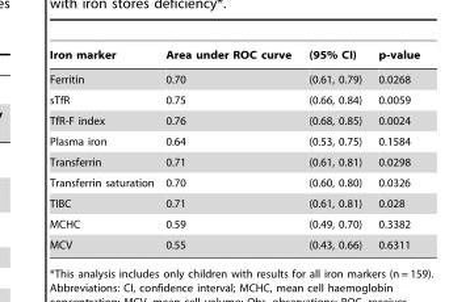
<table><thead><tr><td>Iron marker</td><td>Area under ROC curve</td><td>(95% CI)</td><td>p-value</td></tr></thead><tbody><tr><td>Ferritin</td><td>0.70</td><td>(0.61, 0.79)</td><td>0.0268</td></tr><tr><td>sTfR</td><td>0.75</td><td>(0.66, 0.84)</td><td>0.0059</td></tr><tr><td>TfR-F index</td><td>0.76</td><td>(0.68, 0.85)</td><td>0.0024</td></tr><tr><td>Plasma iron</td><td>0.64</td><td>(0.53, 0.75)</td><td>0.1584</td></tr><tr><td>Transferrin</td><td>0.71</td><td>(0.61, 0.81)</td><td>0.0298</td></tr><tr><td>Transferrin saturation</td><td>0.70</td><td>(0.60, 0.80)</td><td>0.0326</td></tr><tr><td>TIBC</td><td>0.71</td><td>(0.61, 0.81)</td><td>0.028</td></tr><tr><td>MCHC</td><td>0.59</td><td>(0.49, 0.70)</td><td>0.3382</td></tr><tr><td>MCV</td><td>0.55</td><td>(0.43, 0.66)</td><td>0.6311</td></tr></tbody></table>